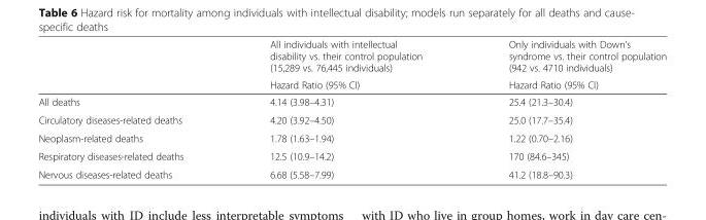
<table><thead><tr><td rowspan="2"></td><td rowspan="2">All individuals with intellectual disability vs. their control population (15,289 vs. 76,445 individuals) Hazard Ratio (95% CI)</td><td rowspan="2">Only individuals with Down’s syndrome vs. their control population (942 vs. 4710 individuals) Hazard Ratio (95% CI)</td></tr><tr></tr></thead><tbody><tr><td>All deaths</td><td>4.14 (3.98–4.31)</td><td>25.4 (21.3–30.4)</td></tr><tr><td>Circulatory diseases-related deaths</td><td>4.20 (3.92–4.50)</td><td>25.0 (17.7–35.4)</td></tr><tr><td>Neoplasm-related deaths</td><td>1.78 (1.63–1.94)</td><td>1.22 (0.70–2.16)</td></tr><tr><td>Respiratory diseases-related deaths</td><td>12.5 (10.9–14.2)</td><td>170 (84.6–345)</td></tr><tr><td>Nervous diseases-related deaths</td><td>6.68 (5.58–7.99)</td><td>41.2 (18.8–90.3)</td></tr></tbody></table>